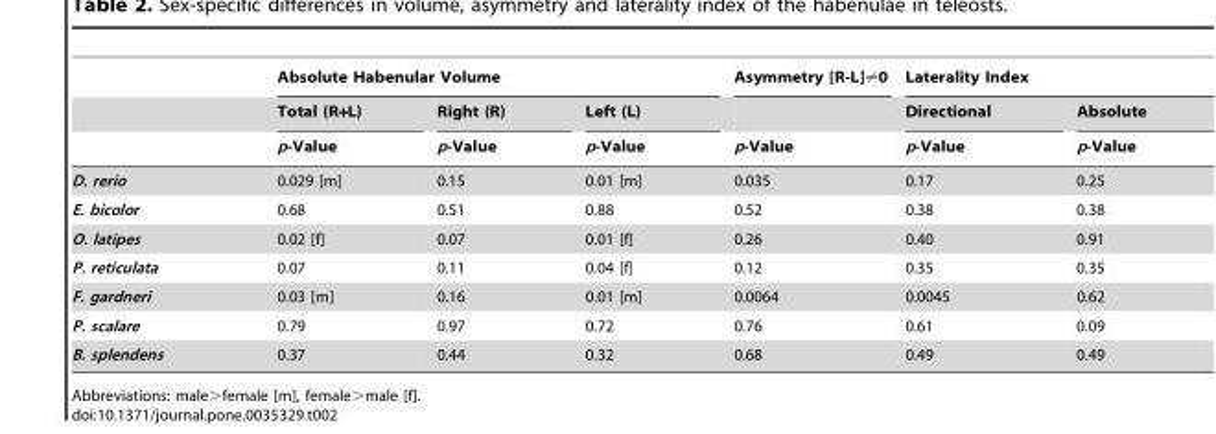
<table><thead><tr><td rowspan="3"></td><td colspan="3">Absolute Habenular Volume</td><td rowspan="3">Asymmetry [R-L]≠0 p-Value</td><td colspan="2">Laterality Index</td></tr><tr><td rowspan="2">Total (R+L) p-Value</td><td rowspan="2">Right (R) p-Value</td><td rowspan="2">Left (L) p-Value</td><td rowspan="2">Directional p-Value</td><td rowspan="2">Absolute p-Value</td></tr><tr></tr></thead><tbody><tr><td>D. rerio</td><td>0.029 [m]</td><td>0.15</td><td>0.01 [m]</td><td>0.035</td><td>0.17</td><td>0.25</td></tr><tr><td>E. bicolor</td><td>0.68</td><td>0.51</td><td>0.88</td><td>0.52</td><td>0.38</td><td>0.38</td></tr><tr><td>O. latipes</td><td>0.02 [f]</td><td>0.07</td><td>0.01 [f]</td><td>0.26</td><td>0.40</td><td>0.91</td></tr><tr><td>P. reticulata</td><td>0.07</td><td>0.11</td><td>0.04 [f]</td><td>0.12</td><td>0.35</td><td>0.35</td></tr><tr><td>F. gardneri</td><td>0.03 [m]</td><td>0.16</td><td>0.01 [m]</td><td>0.0064</td><td>0.0045</td><td>0.62</td></tr><tr><td>P. scalare</td><td>0.79</td><td>0.97</td><td>0.72</td><td>0.76</td><td>0.61</td><td>0.09</td></tr><tr><td>B. splendens</td><td>0.37</td><td>0.44</td><td>0.32</td><td>0.68</td><td>0.49</td><td>0.49</td></tr></tbody></table>